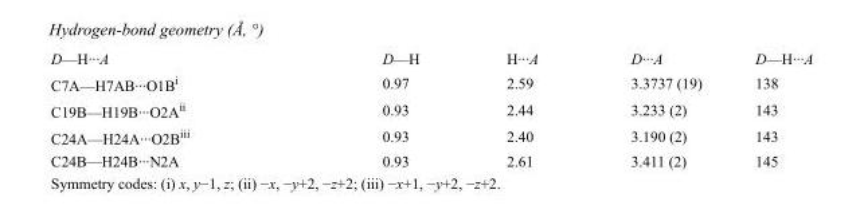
<table><tbody><tr><td>D—H···A</td><td>D—H</td><td>H···A</td><td>D···A</td><td>D—H···A</td></tr><tr><td>C7A—H7AB···O1B<sup>i</sup></td><td>0.97</td><td>2.59</td><td>3.3737 (19)</td><td>138</td></tr><tr><td>C19B—H19B···O2A<sup>ii</sup></td><td>0.93</td><td>2.44</td><td>3.233 (2)</td><td>143</td></tr><tr><td>C24A—H24A···O2B<sup>iii</sup></td><td>0.93</td><td>2.40</td><td>3.190 (2)</td><td>143</td></tr><tr><td>C24B—H24B···N2A</td><td>0.93</td><td>2.61</td><td>3.411 (2)</td><td>145</td></tr></tbody></table>